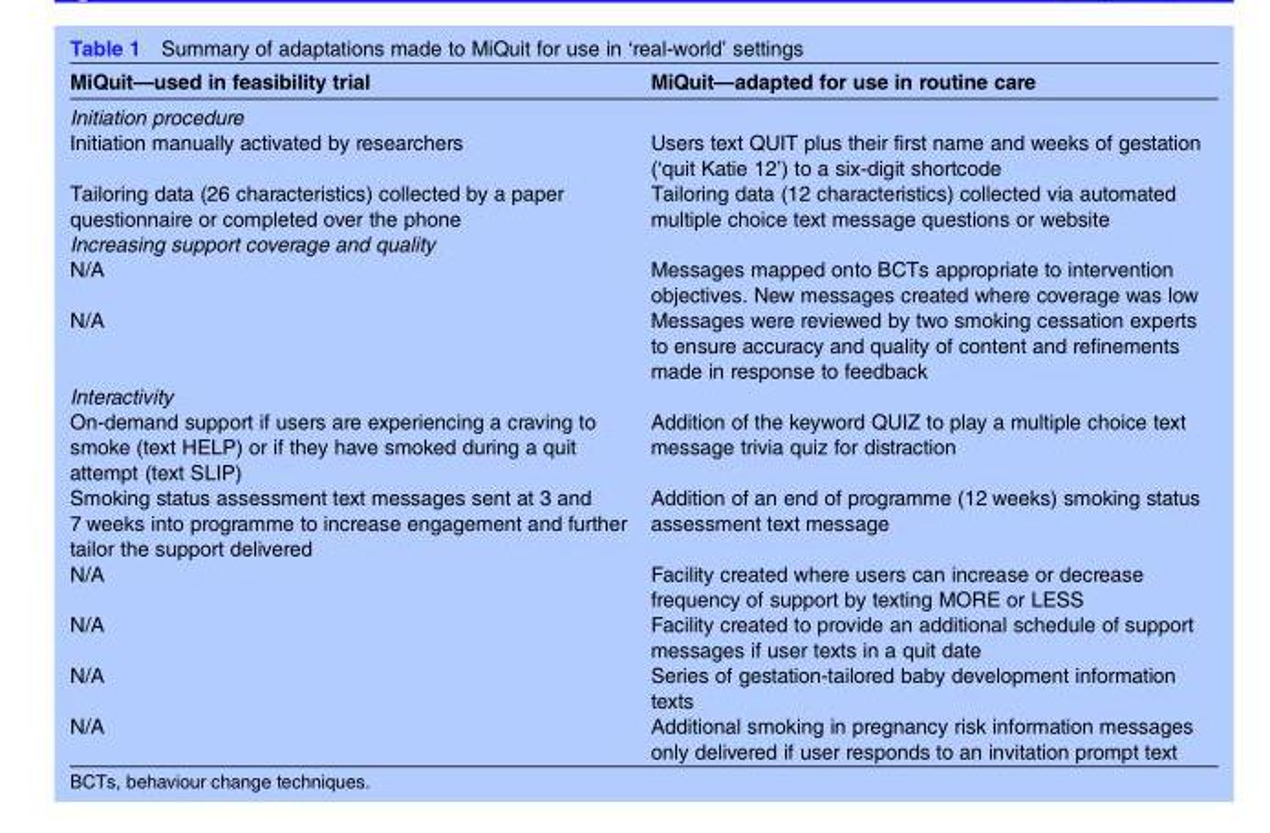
<table><thead><tr><td>MiQuit—used in feasibility trial</td><td>MiQuit—adapted for use in routine care</td></tr></thead><tbody><tr><td colspan="2">Initiation procedure</td></tr><tr><td>Initiation manually activated by researchers</td><td>Users text QUIT plus their first name and weeks of gestation (‘quit Katie 12’) to a six-digit shortcode</td></tr><tr><td>Tailoring data (26 characteristics) collected by a paper questionnaire or completed over the phone</td><td>Tailoring data (12 characteristics) collected via automated multiple choice text message questions or website</td></tr><tr><td colspan="2">Increasing support coverage and quality</td></tr><tr><td>N/A</td><td>Messages mapped onto BCTs appropriate to intervention objectives. New messages created where coverage was low</td></tr><tr><td>N/A</td><td>Messages were reviewed by two smoking cessation experts to ensure accuracy and quality of content and refinements made in response to feedback</td></tr><tr><td colspan="2">Interactivity</td></tr><tr><td>On-demand support if users are experiencing a craving to smoke (text HELP) or if they have smoked during a quit attempt (text SLIP)</td><td>Addition of the keyword QUIZ to play a multiple choice text message trivia quiz for distraction</td></tr><tr><td>Smoking status assessment text messages sent at 3 and 7 weeks into programme to increase engagement and further tailor the support delivered</td><td>Addition of an end of programme (12 weeks) smoking status assessment text message</td></tr><tr><td>N/A</td><td>Facility created where users can increase or decrease frequency of support by texting MORE or LESS</td></tr><tr><td>N/A</td><td>Facility created to provide an additional schedule of support messages if user texts in a quit date</td></tr><tr><td>N/A</td><td>Series of gestation-tailored baby development information texts</td></tr><tr><td>N/A</td><td>Additional smoking in pregnancy risk information messages only delivered if user responds to an invitation prompt text</td></tr></tbody></table>